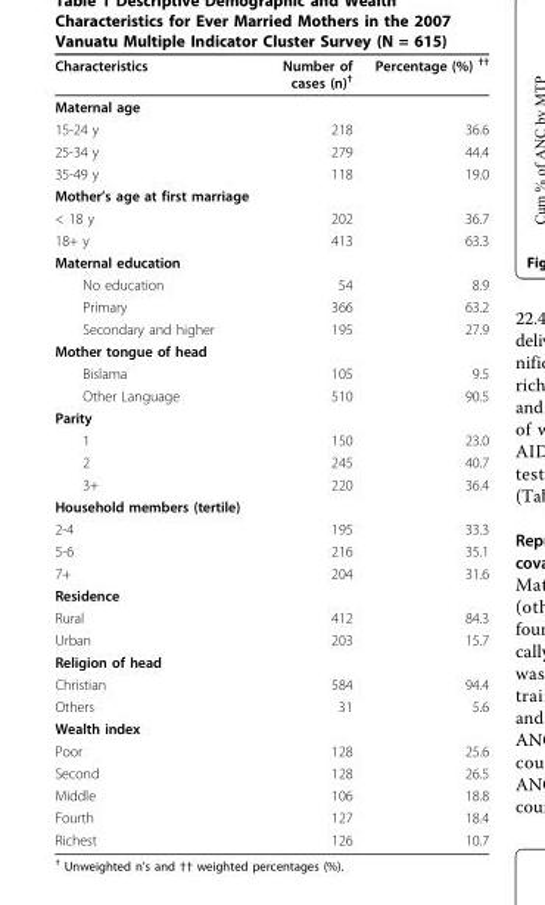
<table><thead><tr><td>Characteristics</td><td>Number of cases (n)<sup>†</sup></td><td>Percentage (%) <sup>††</sup></td></tr></thead><tbody><tr><td colspan="3">Maternal age</td></tr><tr><td>15-24 y</td><td>218</td><td>36.6</td></tr><tr><td>25-34 y</td><td>279</td><td>44.4</td></tr><tr><td>35-49 y</td><td>118</td><td>19.0</td></tr><tr><td colspan="3">Mother’s age at first marriage</td></tr><tr><td>&lt; 18 y</td><td>202</td><td>36.7</td></tr><tr><td>18+ y</td><td>413</td><td>63.3</td></tr><tr><td colspan="3">Maternal education</td></tr><tr><td>No education</td><td>54</td><td>8.9</td></tr><tr><td>Primary</td><td>366</td><td>63.2</td></tr><tr><td>Secondary and higher</td><td>195</td><td>27.9</td></tr><tr><td colspan="3">Mother tongue of head</td></tr><tr><td>Bislama</td><td>105</td><td>9.5</td></tr><tr><td>Other Language</td><td>510</td><td>90.5</td></tr><tr><td colspan="3">Parity</td></tr><tr><td>1</td><td>150</td><td>23.0</td></tr><tr><td>2</td><td>245</td><td>40.7</td></tr><tr><td>3+</td><td>220</td><td>36.4</td></tr><tr><td colspan="3">Household members (tertile)</td></tr><tr><td>2-4</td><td>195</td><td>33.3</td></tr><tr><td>5-6</td><td>216</td><td>35.1</td></tr><tr><td>7+</td><td>204</td><td>31.6</td></tr><tr><td colspan="3">Residence</td></tr><tr><td>Rural</td><td>412</td><td>84.3</td></tr><tr><td>Urban</td><td>203</td><td>15.7</td></tr><tr><td colspan="3">Religion of head</td></tr><tr><td>Christian</td><td>584</td><td>94.4</td></tr><tr><td>Others</td><td>31</td><td>5.6</td></tr><tr><td colspan="3">Wealth index</td></tr><tr><td>Poor</td><td>128</td><td>25.6</td></tr><tr><td>Second</td><td>128</td><td>26.5</td></tr><tr><td>Middle</td><td>106</td><td>18.8</td></tr><tr><td>Fourth</td><td>127</td><td>18.4</td></tr><tr><td>Richest</td><td>126</td><td>10.7</td></tr></tbody></table>